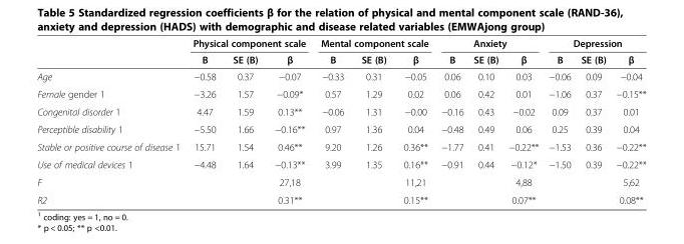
<table><thead><tr><td rowspan="2"></td><td colspan="3">Physical component scale</td><td colspan="3">Mental component scale</td><td colspan="3">Anxiety</td><td colspan="3">Depression</td></tr><tr><td>B</td><td>SE (B)</td><td>β</td><td>B</td><td>SE (B)</td><td>β</td><td>B</td><td>SE (B)</td><td>β</td><td>B</td><td>SE (B)</td><td>β</td></tr></thead><tbody><tr><td>Age</td><td>−0.58</td><td>0.37</td><td>−0.07</td><td>−0.33</td><td>0.31</td><td>−0.05</td><td>0.06</td><td>0.10</td><td>0.03</td><td>−0.06</td><td>0.09</td><td>−0.04</td></tr><tr><td>Female gender 1</td><td>−3.26</td><td>1.57</td><td>−0.09*</td><td>0.57</td><td>1.29</td><td>0.02</td><td>0.06</td><td>0.42</td><td>0.01</td><td>−1.06</td><td>0.37</td><td>−0.15**</td></tr><tr><td>Congenital disorder 1</td><td>4.47</td><td>1.59</td><td>0.13**</td><td>−0.06</td><td>1.31</td><td>−0.00</td><td>−0.16</td><td>0.43</td><td>−0.02</td><td>0.09</td><td>0.37</td><td>0.01</td></tr><tr><td>Perceptible disability 1</td><td>−5.50</td><td>1.66</td><td>−0.16**</td><td>0.97</td><td>1.36</td><td>0.04</td><td>−0.48</td><td>0.49</td><td>0.06</td><td>0.25</td><td>0.39</td><td>0.04</td></tr><tr><td>Stable or positive course of disease 1</td><td>15.71</td><td>1.54</td><td>0.46**</td><td>9.20</td><td>1.26</td><td>0.36**</td><td>−1.77</td><td>0.41</td><td>−0.22**</td><td>−1.53</td><td>0.36</td><td>−0.22**</td></tr><tr><td>Use of medical devices 1</td><td>−4.48</td><td>1.64</td><td>−0.13**</td><td>3.99</td><td>1.35</td><td>0.16**</td><td>−0.91</td><td>0.44</td><td>−0.12*</td><td>−1.50</td><td>0.39</td><td>−0.22**</td></tr><tr><td>F</td><td></td><td></td><td>27,18</td><td></td><td></td><td>11,21</td><td></td><td></td><td>4,88</td><td></td><td></td><td>5,62</td></tr><tr><td>R2</td><td></td><td></td><td>0.31**</td><td></td><td></td><td>0.15**</td><td></td><td></td><td>0.07**</td><td></td><td></td><td>0.08**</td></tr></tbody></table>